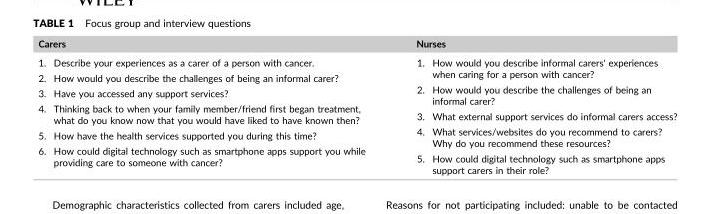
<table><thead><tr><td>Carers</td><td>Nurses</td></tr></thead><tbody><tr><td>1. Describe your experiences as a carer of a person with cancer. 2. How would you describe the challenges of being an informal carer? 3. Have you accessed any support services? 4. Thinking back to when your family member/friend first began treatment, what do you know now that you would have liked to have known then? 5. How have the health services supported you during this time? 6. How could digital technology such as smartphone apps support you while providing care to someone with cancer?</td><td>1. How would you describe informal carers&#x27; experiences when caring for a person with cancer? 2. How would you describe the challenges of being an informal carer? 3. What external support services do informal carers access? 4. What services/websites do you recommend to carers? Why do you recommend these resources? 5. How could digital technology such as smartphone apps support carers in their role?</td></tr></tbody></table>